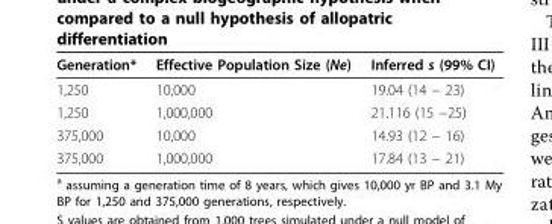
<table><thead><tr><td>Generation*</td><td>Effective Population Size (Ne)</td><td>Inferred s (99% CI)</td></tr></thead><tbody><tr><td>1,250</td><td>10,000</td><td>19.04 (14 − 23)</td></tr><tr><td>1,250</td><td>1,000,000</td><td>21.116 (15 −25)</td></tr><tr><td>375,000</td><td>10,000</td><td>14.93 (12 − 16)</td></tr><tr><td>375,000</td><td>1,000,000</td><td>17.84 (13 − 21)</td></tr></tbody></table>